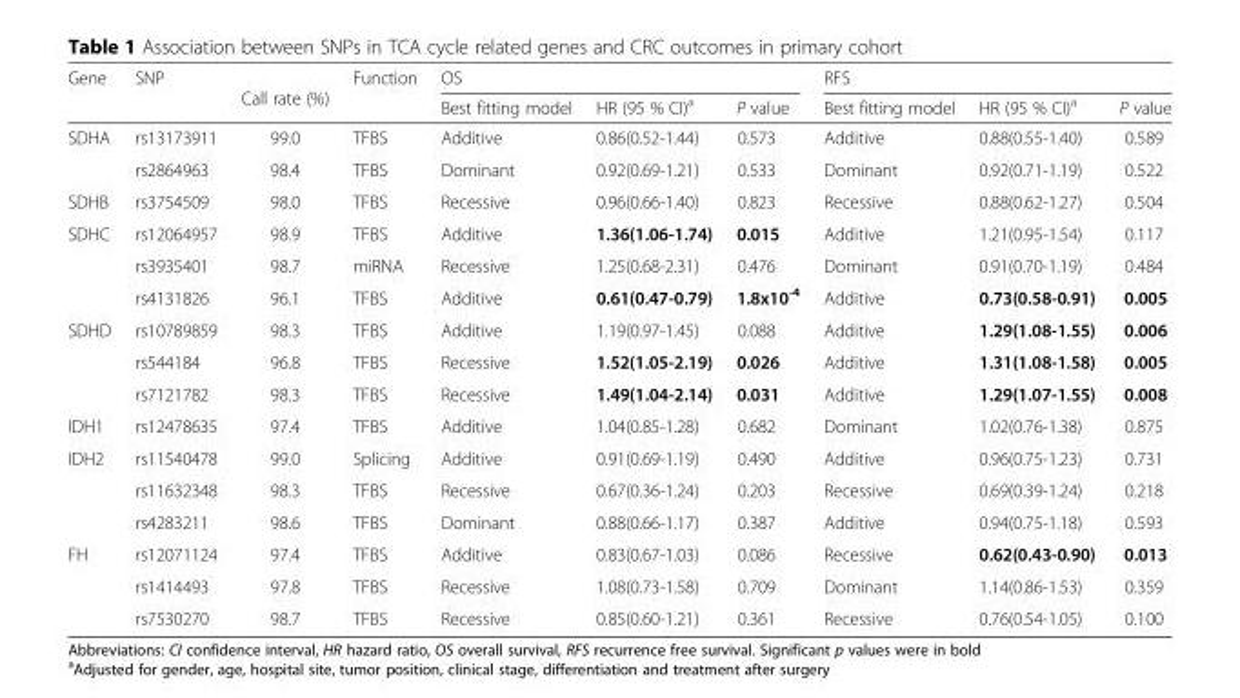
<table><thead><tr><td rowspan="2">Gene</td><td rowspan="2">SNP</td><td rowspan="2">Call rate (%)</td><td rowspan="2">Function</td><td colspan="3">OS</td><td colspan="3">RFS</td></tr><tr><td>Best fitting model</td><td>HR (95 % CI)<sup>a</sup></td><td>P value</td><td>Best fitting model</td><td>HR (95 % CI)<sup>a</sup></td><td>P value</td></tr></thead><tbody><tr><td rowspan="2">SDHA</td><td>rs13173911</td><td>99.0</td><td>TFBS</td><td>Additive</td><td>0.86(0.52-1.44)</td><td>0.573</td><td>Additive</td><td>0.88(0.55-1.40)</td><td>0.589</td></tr><tr><td>rs2864963</td><td>98.4</td><td>TFBS</td><td>Dominant</td><td>0.92(0.69-1.21)</td><td>0.533</td><td>Dominant</td><td>0.92(0.71-1.19)</td><td>0.522</td></tr><tr><td>SDHB</td><td>rs3754509</td><td>98.0</td><td>TFBS</td><td>Recessive</td><td>0.96(0.66-1.40)</td><td>0.823</td><td>Recessive</td><td>0.88(0.62-1.27)</td><td>0.504</td></tr><tr><td rowspan="3">SDHC</td><td>rs12064957</td><td>98.9</td><td>TFBS</td><td>Additive</td><td>1.36(1.06-1.74)</td><td>0.015</td><td>Additive</td><td>1.21(0.95-1.54)</td><td>0.117</td></tr><tr><td>rs3935401</td><td>98.7</td><td>miRNA</td><td>Recessive</td><td>1.25(0.68-2.31)</td><td>0.476</td><td>Dominant</td><td>0.91(0.70-1.19)</td><td>0.484</td></tr><tr><td>rs4131826</td><td>96.1</td><td>TFBS</td><td>Additive</td><td>0.61(0.47-0.79)</td><td>1.8x10<sup>-4</sup></td><td>Additive</td><td>0.73(0.58-0.91)</td><td>0.005</td></tr><tr><td rowspan="3">SDHD</td><td>rs10789859</td><td>98.3</td><td>TFBS</td><td>Additive</td><td>1.19(0.97-1.45)</td><td>0.088</td><td>Additive</td><td>1.29(1.08-1.55)</td><td>0.006</td></tr><tr><td>rs544184</td><td>96.8</td><td>TFBS</td><td>Recessive</td><td>1.52(1.05-2.19)</td><td>0.026</td><td>Additive</td><td>1.31(1.08-1.58)</td><td>0.005</td></tr><tr><td>rs7121782</td><td>98.3</td><td>TFBS</td><td>Recessive</td><td>1.49(1.04-2.14)</td><td>0.031</td><td>Additive</td><td>1.29(1.07-1.55)</td><td>0.008</td></tr><tr><td>IDH1</td><td>rs12478635</td><td>97.4</td><td>TFBS</td><td>Additive</td><td>1.04(0.85-1.28)</td><td>0.682</td><td>Dominant</td><td>1.02(0.76-1.38)</td><td>0.875</td></tr><tr><td rowspan="3">IDH2</td><td>rs11540478</td><td>99.0</td><td>Splicing</td><td>Additive</td><td>0.91(0.69-1.19)</td><td>0.490</td><td>Additive</td><td>0.96(0.75-1.23)</td><td>0.731</td></tr><tr><td>rs11632348</td><td>98.3</td><td>TFBS</td><td>Recessive</td><td>0.67(0.36-1.24)</td><td>0.203</td><td>Recessive</td><td>0.69(0.39-1.24)</td><td>0.218</td></tr><tr><td>rs4283211</td><td>98.6</td><td>TFBS</td><td>Dominant</td><td>0.88(0.66-1.17)</td><td>0.387</td><td>Additive</td><td>0.94(0.75-1.18)</td><td>0.593</td></tr><tr><td rowspan="3">FH</td><td>rs12071124</td><td>97.4</td><td>TFBS</td><td>Additive</td><td>0.83(0.67-1.03)</td><td>0.086</td><td>Recessive</td><td>0.62(0.43-0.90)</td><td>0.013</td></tr><tr><td>rs1414493</td><td>97.8</td><td>TFBS</td><td>Recessive</td><td>1.08(0.73-1.58)</td><td>0.709</td><td>Dominant</td><td>1.14(0.86-1.53)</td><td>0.359</td></tr><tr><td>rs7530270</td><td>98.7</td><td>TFBS</td><td>Recessive</td><td>0.85(0.60-1.21)</td><td>0.361</td><td>Recessive</td><td>0.76(0.54-1.05)</td><td>0.100</td></tr></tbody></table>